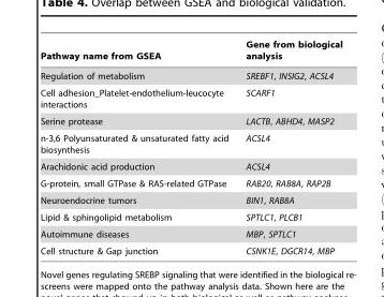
<table><thead><tr><td>Pathway name from GSEA</td><td>Gene from biological analysis</td></tr></thead><tbody><tr><td>Regulation of metabolism</td><td>SREBF1, INSIG2, ACSL4</td></tr><tr><td>Cell adhesion_Platelet-endothelium-leucocyte interactions</td><td>SCARF1</td></tr><tr><td>Serine protease</td><td>LACTB, ABHD4, MASP2</td></tr><tr><td>n-3,6 Polyunsaturated &amp; unsaturated fatty acid biosynthesis</td><td>ACSL4</td></tr><tr><td>Arachidonic acid production</td><td>ACSL4</td></tr><tr><td>G-protein, small GTPase &amp; RAS-related GTPase</td><td>RAB20, RAB8A, RAP2B</td></tr><tr><td>Neuroendocrine tumors</td><td>BIN1, RAB8A</td></tr><tr><td>Lipid &amp; sphingolipid metabolism</td><td>SPTLC1, PLCB1</td></tr><tr><td>Autoimmune diseases</td><td>MBP, SPTLC1</td></tr><tr><td>Cell structure &amp; Gap junction</td><td>CSNK1E, DGCR14, MBP</td></tr></tbody></table>